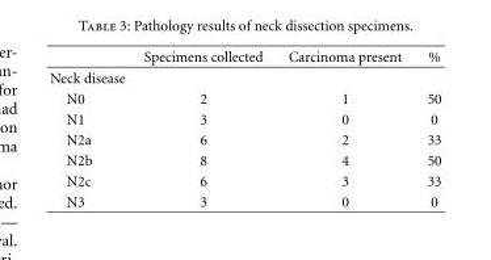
<table><thead><tr><td></td><td>Specimens collected</td><td>Carcinoma present</td><td>%</td></tr></thead><tbody><tr><td colspan="4">Neck disease</td></tr><tr><td>N0</td><td>2</td><td>1</td><td>50</td></tr><tr><td>N1</td><td>3</td><td>0</td><td>0</td></tr><tr><td>N2a</td><td>6</td><td>2</td><td>33</td></tr><tr><td>N2b</td><td>8</td><td>4</td><td>50</td></tr><tr><td>N2c</td><td>6</td><td>3</td><td>33</td></tr><tr><td>N3</td><td>3</td><td>0</td><td>0</td></tr></tbody></table>